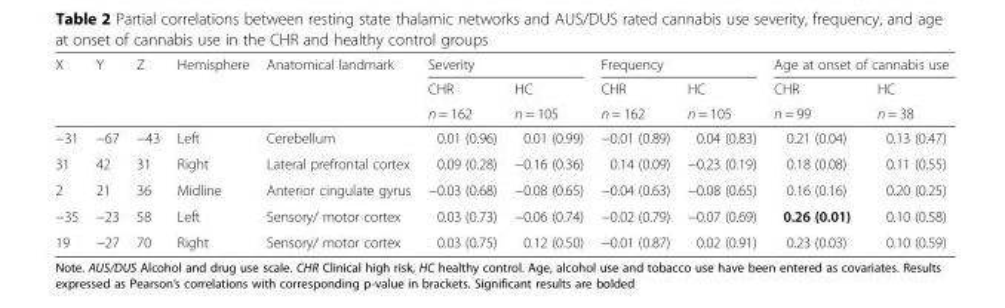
<table><thead><tr><td rowspan="3">X</td><td rowspan="3">Y</td><td rowspan="3">Z</td><td rowspan="3">Hemisphere</td><td rowspan="3">Anatomical landmark</td><td colspan="2">Severity</td><td colspan="2">Frequency</td><td colspan="2">Age at onset of cannabis use</td></tr><tr><td rowspan="2">CHR n = 162</td><td rowspan="2">HC n = 105</td><td rowspan="2">CHR n = 162</td><td rowspan="2">HC n = 105</td><td rowspan="2">CHR n = 99</td><td rowspan="2">HC n = 38</td></tr><tr></tr></thead><tbody><tr><td>−31</td><td>−67</td><td>−43</td><td>Left</td><td>Cerebellum</td><td>0.01 (0.96)</td><td>0.01 (0.99)</td><td>−0.01 (0.89)</td><td>0.04 (0.83)</td><td>0.21 (0.04)</td><td>0.13 (0.47)</td></tr><tr><td>31</td><td>42</td><td>31</td><td>Right</td><td>Lateral prefrontal cortex</td><td>0.09 (0.28)</td><td>−0.16 (0.36)</td><td>0.14 (0.09)</td><td>−0.23 (0.19)</td><td>0.18 (0.08)</td><td>0.11 (0.55)</td></tr><tr><td>2</td><td>21</td><td>36</td><td>Midline</td><td>Anterior cingulate gyrus</td><td>−0.03 (0.68)</td><td>−0.08 (0.65)</td><td>−0.04 (0.63)</td><td>−0.08 (0.65)</td><td>0.16 (0.16)</td><td>0.20 (0.25)</td></tr><tr><td>−35</td><td>−23</td><td>58</td><td>Left</td><td>Sensory/ motor cortex</td><td>0.03 (0.73)</td><td>−0.06 (0.74)</td><td>−0.02 (0.79)</td><td>−0.07 (0.69)</td><td>0.26 (0.01)</td><td>0.10 (0.58)</td></tr><tr><td>19</td><td>−27</td><td>70</td><td>Right</td><td>Sensory/ motor cortex</td><td>0.03 (0.75)</td><td>0.12 (0.50)</td><td>−0.01 (0.87)</td><td>0.02 (0.91)</td><td>0.23 (0.03)</td><td>0.10 (0.59)</td></tr></tbody></table>